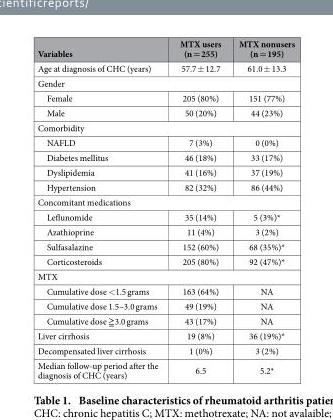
<table><thead><tr><td>Variables</td><td>MTX users (n = 255)</td><td>MTX nonusers (n = 195)</td></tr></thead><tbody><tr><td>Age at diagnosis of CHC (years)</td><td>57.7 ± 12.7</td><td>61.0 ± 13.3</td></tr><tr><td colspan="3">Gender</td></tr><tr><td>Female</td><td>205 (80%)</td><td>151 (77%)</td></tr><tr><td>Male</td><td>50 (20%)</td><td>44 (23%)</td></tr><tr><td colspan="3">Comorbidity</td></tr><tr><td>NAFLD</td><td>7 (3%)</td><td>0 (0%)</td></tr><tr><td>Diabetes mellitus</td><td>46 (18%)</td><td>33 (17%)</td></tr><tr><td>Dyslipidemia</td><td>41 (16%)</td><td>37 (19%)</td></tr><tr><td>Hypertension</td><td>82 (32%)</td><td>86 (44%)</td></tr><tr><td colspan="3">Concomitant medications</td></tr><tr><td>Leflunomide</td><td>35 (14%)</td><td>5 (3%)*</td></tr><tr><td>Azathioprine</td><td>11 (4%)</td><td>3 (2%)</td></tr><tr><td>Sulfasalazine</td><td>152 (60%)</td><td>68 (35%)*</td></tr><tr><td>Corticosteroids</td><td>205 (80%)</td><td>92 (47%)*</td></tr><tr><td colspan="3">MTX</td></tr><tr><td>Cumulative dose &lt; 1.5 grams</td><td>163 (64%)</td><td>NA</td></tr><tr><td>Cumulative dose 1.5–3.0 grams</td><td>49 (19%)</td><td>NA</td></tr><tr><td>Cumulative dose ≧ 3.0 grams</td><td>43 (17%)</td><td>NA</td></tr><tr><td>Liver cirrhosis</td><td>19 (8%)</td><td>36 (19%)*</td></tr><tr><td>Decompensated liver cirrhosis</td><td>1 (0%)</td><td>3 (2%)</td></tr><tr><td>Median follow-up period after the diagnosis of CHC (years)</td><td>6.5</td><td>5.2*</td></tr></tbody></table>